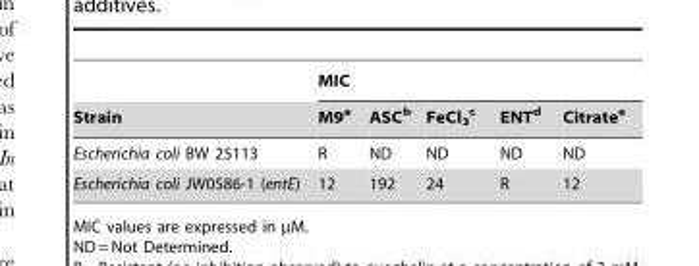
<table><thead><tr><td rowspan="2">Strain</td><td colspan="5">MIC</td></tr><tr><td>M9<sup>a</sup></td><td>ASC<sup>b</sup></td><td>FeCl<sub>3</sub> c</td><td>ENT<sup>d</sup></td><td>Citrate<sup>e</sup></td></tr></thead><tbody><tr><td>Escherichia coli BW 25113</td><td>R</td><td>ND</td><td>ND</td><td>ND</td><td>ND</td></tr><tr><td>Escherichia coli JW0586-1 (entE)</td><td>12</td><td>192</td><td>24</td><td>R</td><td>12</td></tr></tbody></table>